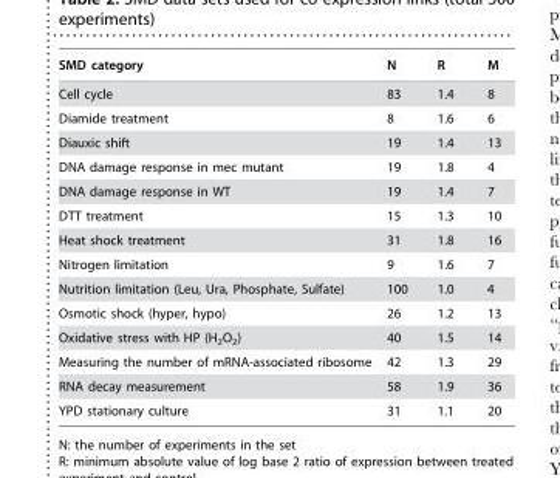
<table><thead><tr><td>SMD category</td><td>N</td><td>R</td><td>M</td></tr></thead><tbody><tr><td>Cell cycle</td><td>83</td><td>1.4</td><td>8</td></tr><tr><td>Diamide treatment</td><td>8</td><td>1.6</td><td>6</td></tr><tr><td>Diauxic shift</td><td>19</td><td>1.4</td><td>13</td></tr><tr><td>DNA damage response in mec mutant</td><td>19</td><td>1.8</td><td>4</td></tr><tr><td>DNA damage response in WT</td><td>19</td><td>1.4</td><td>7</td></tr><tr><td>DTT treatment</td><td>15</td><td>1.3</td><td>10</td></tr><tr><td>Heat shock treatment</td><td>31</td><td>1.8</td><td>16</td></tr><tr><td>Nitrogen limitation</td><td>9</td><td>1.6</td><td>7</td></tr><tr><td>Nutrition limitation (Leu, Ura, Phosphate, Sulfate)</td><td>100</td><td>1.0</td><td>4</td></tr><tr><td>Osmotic shock (hyper, hypo)</td><td>26</td><td>1.2</td><td>13</td></tr><tr><td>Oxidative stress with HP (H<sub>2</sub>O<sub>2</sub>)</td><td>40</td><td>1.5</td><td>14</td></tr><tr><td>Measuring the number of mRNA-associated ribosome</td><td>42</td><td>1.3</td><td>29</td></tr><tr><td>RNA decay measurement</td><td>58</td><td>1.9</td><td>36</td></tr><tr><td>YPD stationary culture</td><td>31</td><td>1.1</td><td>20</td></tr></tbody></table>